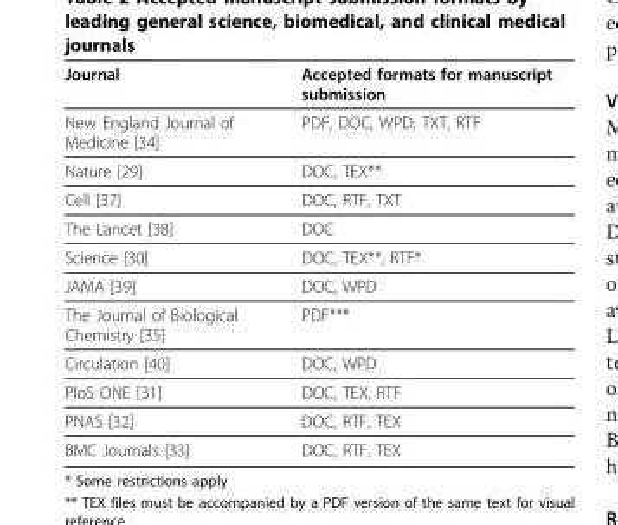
<table><thead><tr><td>Journal</td><td>Accepted formats for manuscript submission</td></tr></thead><tbody><tr><td>New England Journal of Medicine [34]</td><td>PDF, DOC, WPD, TXT, RTF</td></tr><tr><td>Nature [29]</td><td>DOC, TEX**</td></tr><tr><td>Cell [37]</td><td>DOC, RTF, TXT</td></tr><tr><td>The Lancet [38]</td><td>DOC</td></tr><tr><td>Science [30]</td><td>DOC, TEX**, RTF*</td></tr><tr><td>JAMA [39]</td><td>DOC, WPD</td></tr><tr><td>The Journal of Biological Chemistry [35]</td><td>PDF***</td></tr><tr><td>Circulation [40]</td><td>DOC, WPD</td></tr><tr><td>PloS ONE [31]</td><td>DOC, TEX, RTF</td></tr><tr><td>PNAS [32]</td><td>DOC, RTF, TEX</td></tr><tr><td>BMC Journals [33]</td><td>DOC, RTF, TEX</td></tr></tbody></table>